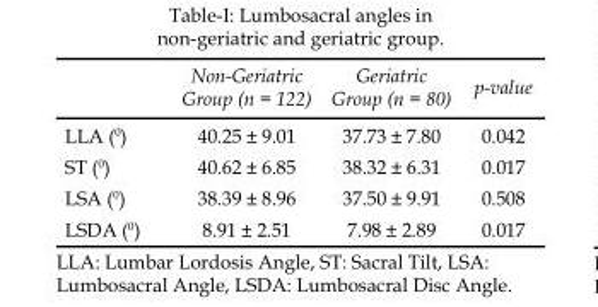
<table><thead><tr><td></td><td>Non-Geriatric Group (n = 122)</td><td>Geriatric Group (n = 80)</td><td>p-value</td></tr></thead><tbody><tr><td>LLA (<sup>0</sup>)</td><td>40.25 ± 9.01</td><td>37.73 ± 7.80</td><td>0.042</td></tr><tr><td>ST (<sup>0</sup>)</td><td>40.62 ± 6.85</td><td>38.32 ± 6.31</td><td>0.017</td></tr><tr><td>LSA (<sup>0</sup>)</td><td>38.39 ± 8.96</td><td>37.50 ± 9.91</td><td>0.508</td></tr><tr><td>LSDA (<sup>0</sup>)</td><td>8.91 ± 2.51</td><td>7.98 ± 2.89</td><td>0.017</td></tr></tbody></table>